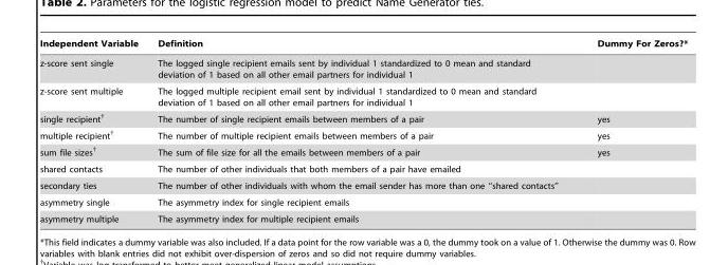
<table><thead><tr><td>Independent Variable</td><td>Definition</td><td>Dummy For Zeros?*</td></tr></thead><tbody><tr><td>z-score sent single</td><td>The logged single recipient emails sent by individual 1 standardized to 0 mean and standard deviation of 1 based on all other email partners for individual 1</td><td></td></tr><tr><td>z-score sent multiple</td><td>The logged multiple recipient email sent by individual 1 standardized to 0 mean and standard deviation of 1 based on all other email partners for individual 1</td><td></td></tr><tr><td>single recipient†</td><td>The number of single recipient emails between members of a pair</td><td>yes</td></tr><tr><td>multiple recipient†</td><td>The number of multiple recipient emails between members of a pair</td><td>yes</td></tr><tr><td>sum file sizes†</td><td>The sum of file size for all the emails between members of a pair</td><td>yes</td></tr><tr><td>shared contacts</td><td>The number of other individuals that both members of a pair have emailed</td><td></td></tr><tr><td>secondary ties</td><td>The number of other individuals with whom the email sender has more than one ‘‘shared contacts’’</td><td></td></tr><tr><td>asymmetry single</td><td>The asymmetry index for single recipient emails</td><td></td></tr><tr><td>asymmetry multiple</td><td>The asymmetry index for multiple recipient emails</td><td></td></tr></tbody></table>